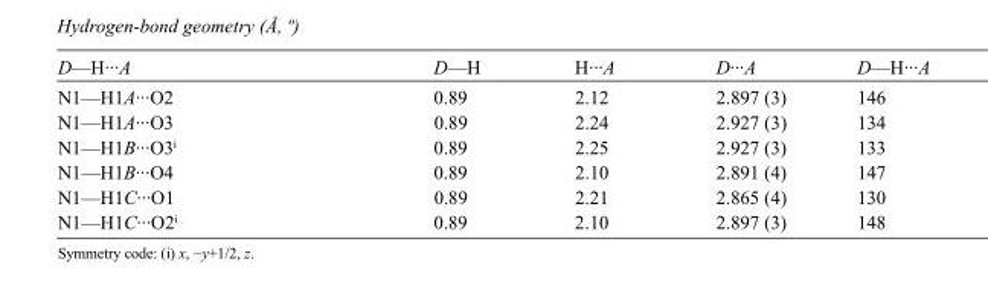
<table><tbody><tr><td>D—H···A</td><td>D—H</td><td>H···A</td><td>D···A</td><td>D—H···A</td></tr><tr><td>N1—H1A···O2</td><td>0.89</td><td>2.12</td><td>2.897 (3)</td><td>146</td></tr><tr><td>N1—H1A···O3</td><td>0.89</td><td>2.24</td><td>2.927 (3)</td><td>134</td></tr><tr><td>N1—H1B···O3<sup>i</sup></td><td>0.89</td><td>2.25</td><td>2.927 (3)</td><td>133</td></tr><tr><td>N1—H1B···O4</td><td>0.89</td><td>2.10</td><td>2.891 (4)</td><td>147</td></tr><tr><td>N1—H1C···O1</td><td>0.89</td><td>2.21</td><td>2.865 (4)</td><td>130</td></tr><tr><td>N1—H1C···O2<sup>i</sup></td><td>0.89</td><td>2.10</td><td>2.897 (3)</td><td>148</td></tr></tbody></table>